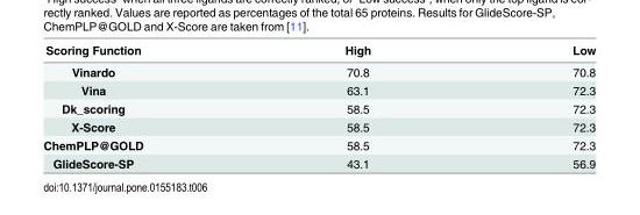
<table><thead><tr><td>Scoring Function</td><td>High</td><td>Low</td></tr></thead><tbody><tr><td>Vinardo</td><td>70.8</td><td>70.8</td></tr><tr><td>Vina</td><td>63.1</td><td>72.3</td></tr><tr><td>Dk_scoring</td><td>58.5</td><td>72.3</td></tr><tr><td>X-Score</td><td>58.5</td><td>72.3</td></tr><tr><td>ChemPLP@GOLD</td><td>58.5</td><td>72.3</td></tr><tr><td>GlideScore-SP</td><td>43.1</td><td>56.9</td></tr></tbody></table>